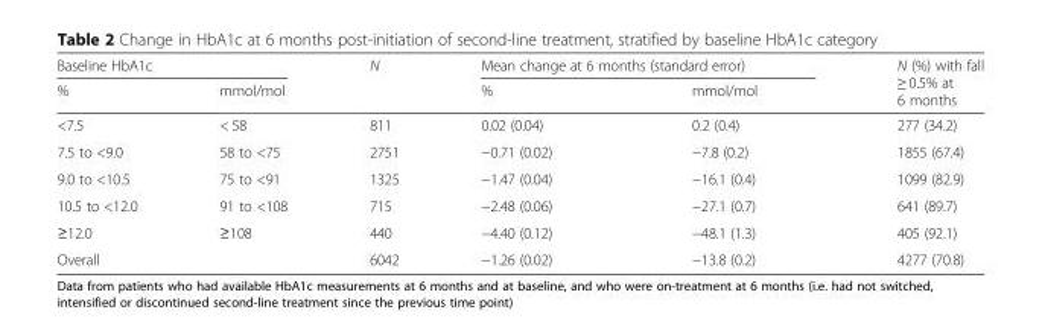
<table><thead><tr><td colspan="2">Baseline HbA1c</td><td rowspan="2">N</td><td colspan="2">Mean change at 6 months (standard error)</td><td rowspan="2">N (%) with fall ≥ 0.5% at 6 months</td></tr><tr><td>%</td><td>mmol/mol</td><td>%</td><td>mmol/mol</td></tr></thead><tbody><tr><td>&lt;7.5</td><td>&lt; 58</td><td>811</td><td>0.02 (0.04)</td><td>0.2 (0.4)</td><td>277 (34.2)</td></tr><tr><td>7.5 to &lt;9.0</td><td>58 to &lt;75</td><td>2751</td><td>−0.71 (0.02)</td><td>−7.8 (0.2)</td><td>1855 (67.4)</td></tr><tr><td>9.0 to &lt;10.5</td><td>75 to &lt;91</td><td>1325</td><td>−1.47 (0.04)</td><td>−16.1 (0.4)</td><td>1099 (82.9)</td></tr><tr><td>10.5 to &lt;12.0</td><td>91 to &lt;108</td><td>715</td><td>−2.48 (0.06)</td><td>−27.1 (0.7)</td><td>641 (89.7)</td></tr><tr><td>≥12.0</td><td>≥108</td><td>440</td><td>−4.40 (0.12)</td><td>−48.1 (1.3)</td><td>405 (92.1)</td></tr><tr><td>Overall</td><td></td><td>6042</td><td>−1.26 (0.02)</td><td>−13.8 (0.2)</td><td>4277 (70.8)</td></tr></tbody></table>